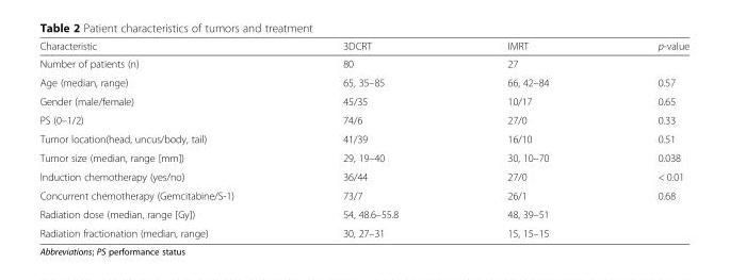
<table><thead><tr><td>Characteristic</td><td>3DCRT</td><td>IMRT</td><td>p-value</td></tr></thead><tbody><tr><td>Number of patients (n)</td><td>80</td><td>27</td><td></td></tr><tr><td>Age (median, range)</td><td>65, 35–85</td><td>66, 42–84</td><td>0.57</td></tr><tr><td>Gender (male/female)</td><td>45/35</td><td>10/17</td><td>0.65</td></tr><tr><td>PS (0–1/2)</td><td>74/6</td><td>27/0</td><td>0.33</td></tr><tr><td>Tumor location(head, uncus/body, tail)</td><td>41/39</td><td>16/10</td><td>0.51</td></tr><tr><td>Tumor size (median, range [mm])</td><td>29, 19–40</td><td>30, 10–70</td><td>0.038</td></tr><tr><td>Induction chemotherapy (yes/no)</td><td>36/44</td><td>27/0</td><td>&lt; 0.01</td></tr><tr><td>Concurrent chemotherapy (Gemcitabine/S-1)</td><td>73/7</td><td>26/1</td><td>0.68</td></tr><tr><td>Radiation dose (median, range [Gy])</td><td>54, 48.6–55.8</td><td>48, 39–51</td><td></td></tr><tr><td>Radiation fractionation (median, range)</td><td>30, 27–31</td><td>15, 15–15</td><td></td></tr></tbody></table>